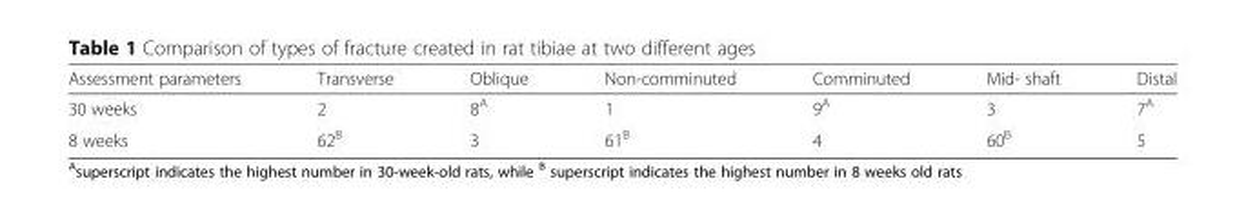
<table><thead><tr><td>Assessment parameters</td><td>Transverse</td><td>Oblique</td><td>Non-comminuted</td><td>Comminuted</td><td>Mid- shaft</td><td>Distal</td></tr></thead><tbody><tr><td>30 weeks</td><td>2</td><td>8<sup>A</sup></td><td>1</td><td>9<sup>A</sup></td><td>3</td><td>7<sup>A</sup></td></tr><tr><td>8 weeks</td><td>62<sup>B</sup></td><td>3</td><td>61<sup>B</sup></td><td>4</td><td>60<sup>B</sup></td><td>5</td></tr></tbody></table>